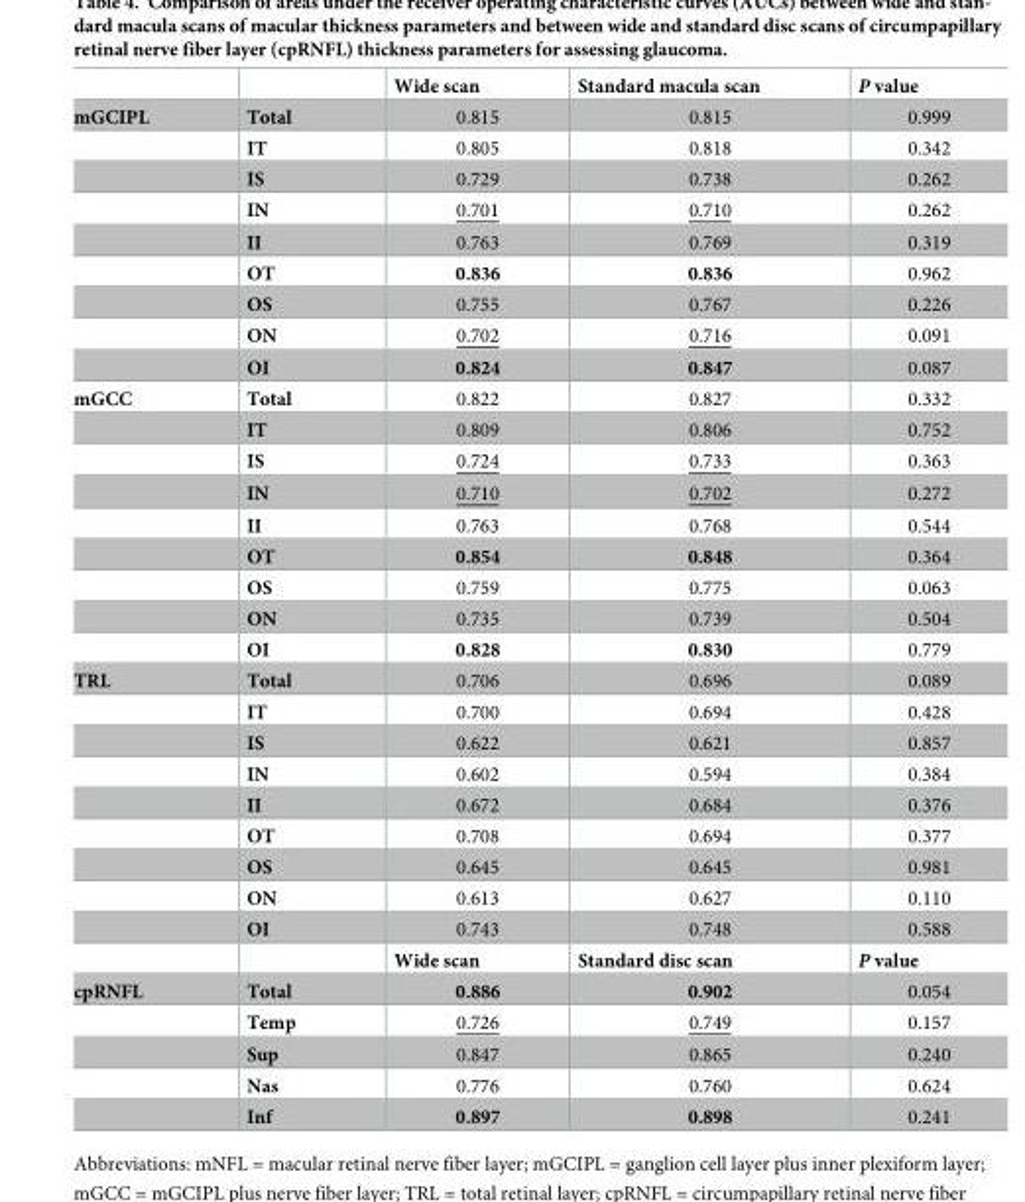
<table><thead><tr><td></td><td></td><td>Wide scan</td><td>Standard macula scan</td><td>P value</td></tr></thead><tbody><tr><td rowspan="9">mGCIPL</td><td>Total</td><td>0.815</td><td>0.815</td><td>0.999</td></tr><tr><td>IT</td><td>0.805</td><td>0.818</td><td>0.342</td></tr><tr><td>IS</td><td>0.729</td><td>0.738</td><td>0.262</td></tr><tr><td>IN</td><td>0.701</td><td>0.710</td><td>0.262</td></tr><tr><td>II</td><td>0.763</td><td>0.769</td><td>0.319</td></tr><tr><td>OT</td><td>0.836</td><td>0.836</td><td>0.962</td></tr><tr><td>OS</td><td>0.755</td><td>0.767</td><td>0.226</td></tr><tr><td>ON</td><td>0.702</td><td>0.716</td><td>0.091</td></tr><tr><td>OI</td><td>0.824</td><td>0.847</td><td>0.087</td></tr><tr><td rowspan="9">mGCC</td><td>Total</td><td>0.822</td><td>0.827</td><td>0.332</td></tr><tr><td>IT</td><td>0.809</td><td>0.806</td><td>0.752</td></tr><tr><td>IS</td><td>0.724</td><td>0.733</td><td>0.363</td></tr><tr><td>IN</td><td>0.710</td><td>0.702</td><td>0.272</td></tr><tr><td>II</td><td>0.763</td><td>0.768</td><td>0.544</td></tr><tr><td>OT</td><td>0.854</td><td>0.848</td><td>0.364</td></tr><tr><td>OS</td><td>0.759</td><td>0.775</td><td>0.063</td></tr><tr><td>ON</td><td>0.735</td><td>0.739</td><td>0.504</td></tr><tr><td>OI</td><td>0.828</td><td>0.830</td><td>0.779</td></tr><tr><td rowspan="10">TRL</td><td>Total</td><td>0.706</td><td>0.696</td><td>0.089</td></tr><tr><td>IT</td><td>0.700</td><td>0.694</td><td>0.428</td></tr><tr><td>IS</td><td>0.622</td><td>0.621</td><td>0.857</td></tr><tr><td>IN</td><td>0.602</td><td>0.594</td><td>0.384</td></tr><tr><td>II</td><td>0.672</td><td>0.684</td><td>0.376</td></tr><tr><td>OT</td><td>0.708</td><td>0.694</td><td>0.377</td></tr><tr><td>OS</td><td>0.645</td><td>0.645</td><td>0.981</td></tr><tr><td>ON</td><td>0.613</td><td>0.627</td><td>0.110</td></tr><tr><td>OI</td><td>0.743</td><td>0.748</td><td>0.588</td></tr><tr><td></td><td>Wide scan</td><td>Standard disc scan</td><td>P value</td></tr><tr><td rowspan="5">cpRNFL</td><td>Total</td><td>0.886</td><td>0.902</td><td>0.054</td></tr><tr><td>Temp</td><td>0.726</td><td>0.749</td><td>0.157</td></tr><tr><td>Sup</td><td>0.847</td><td>0.865</td><td>0.240</td></tr><tr><td>Nas</td><td>0.776</td><td>0.760</td><td>0.624</td></tr><tr><td>Inf</td><td>0.897</td><td>0.898</td><td>0.241</td></tr></tbody></table>